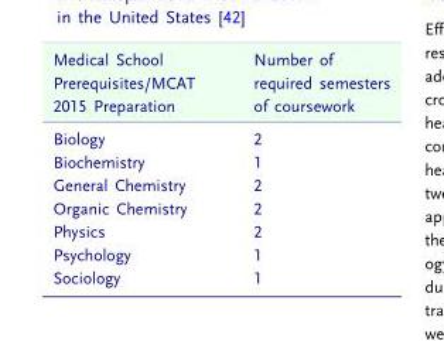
<table><thead><tr><td>Medical School Prerequisites/MCAT 2015 Preparation</td><td>Number of required semesters of coursework</td></tr></thead><tbody><tr><td>Biology</td><td>2</td></tr><tr><td>Biochemistry</td><td>1</td></tr><tr><td>General Chemistry</td><td>2</td></tr><tr><td>Organic Chemistry</td><td>2</td></tr><tr><td>Physics</td><td>2</td></tr><tr><td>Psychology</td><td>1</td></tr><tr><td>Sociology</td><td>1</td></tr></tbody></table>